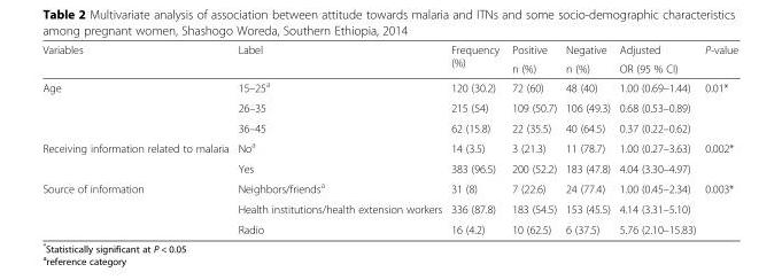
<table><thead><tr><td rowspan="2">Variables</td><td rowspan="2">Label</td><td rowspan="2">Frequency (%)</td><td rowspan="2">Positive n (%)</td><td rowspan="2">Negative n (%)</td><td rowspan="2">Adjusted OR (95 % CI)</td><td rowspan="2">P-value</td></tr><tr></tr></thead><tbody><tr><td rowspan="3">Age</td><td>15–25<sup>a</sup></td><td>120 (30.2)</td><td>72 (60)</td><td>48 (40)</td><td>1.00 (0.69–1.44)</td><td rowspan="3">0.01*</td></tr><tr><td>26–35</td><td>215 (54)</td><td>109 (50.7)</td><td>106 (49.3)</td><td>0.68 (0.53–0.89)</td></tr><tr><td>36–45</td><td>62 (15.8)</td><td>22 (35.5)</td><td>40 (64.5)</td><td>0.37 (0.22–0.62)</td></tr><tr><td rowspan="2">Receiving information related to malaria</td><td>No<sup>a</sup></td><td>14 (3.5)</td><td>3 (21.3)</td><td>11 (78.7)</td><td>1.00 (0.27–3.63)</td><td rowspan="2">0.002*</td></tr><tr><td>Yes</td><td>383 (96.5)</td><td>200 (52.2)</td><td>183 (47.8)</td><td>4.04 (3.30–4.97)</td></tr><tr><td rowspan="3">Source of information</td><td>Neighbors/friends<sup>a</sup></td><td>31 (8)</td><td>7 (22.6)</td><td>24 (77.4)</td><td>1.00 (0.45–2.34)</td><td rowspan="3">0.003*</td></tr><tr><td>Health institutions/health extension workers</td><td>336 (87.8)</td><td>183 (54.5)</td><td>153 (45.5)</td><td>4.14 (3.31–5.10)</td></tr><tr><td>Radio</td><td>16 (4.2)</td><td>10 (62.5)</td><td>6 (37.5)</td><td>5.76 (2.10–15.83)</td></tr></tbody></table>